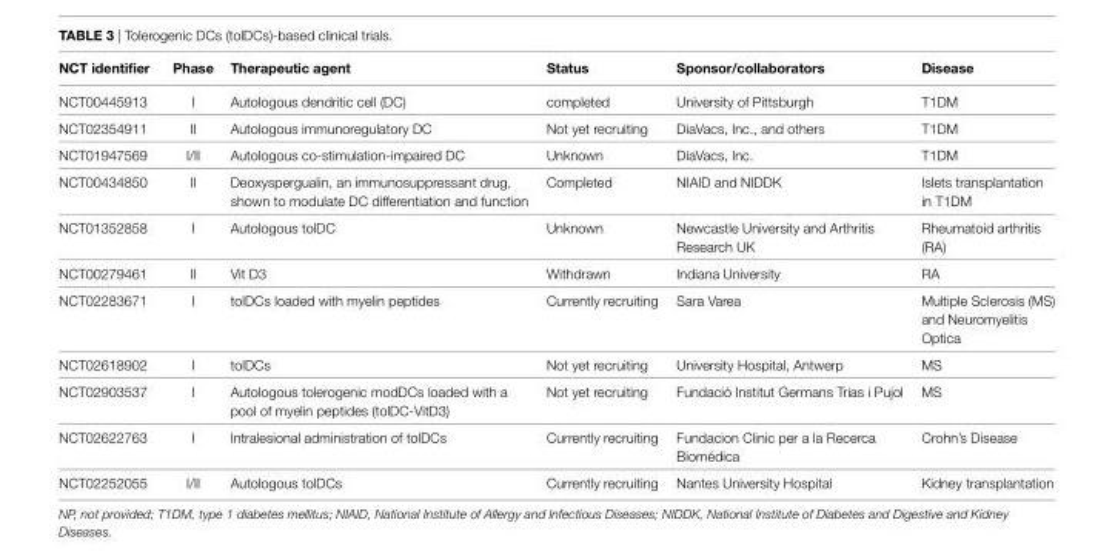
<table><thead><tr><td>NCT identifier</td><td>Phase</td><td>Therapeutic agent</td><td>Status</td><td>Sponsor/collaborators</td><td>Disease</td></tr></thead><tbody><tr><td>NCT00445913</td><td>I</td><td>Autologous dendritic cell (DC)</td><td>completed</td><td>University of Pittsburgh</td><td>T1DM</td></tr><tr><td>NCT02354911</td><td>II</td><td>Autologous immunoregulatory DC</td><td>Not yet recruiting</td><td>DiaVacs, Inc., and others</td><td>T1DM</td></tr><tr><td>NCT01947569</td><td>I/II</td><td>Autologous co-stimulation-impaired DC</td><td>Unknown</td><td>DiaVacs, Inc.</td><td>T1DM</td></tr><tr><td>NCT00434850</td><td>II</td><td>Deoxyspergualin, an immunosuppressant drug, shown to modulate DC differentiation and function</td><td>Completed</td><td>NIAID and NIDDK</td><td>Islets transplantation in T1DM</td></tr><tr><td>NCT01352858</td><td>I</td><td>Autologous tolDC</td><td>Unknown</td><td>Newcastle University and Arthritis Research UK</td><td>Rheumatoid arthritis (RA)</td></tr><tr><td>NCT00279461</td><td>II</td><td>Vit D3</td><td>Withdrawn</td><td>Indiana University</td><td>RA</td></tr><tr><td>NCT02283671</td><td>I</td><td>tolDCs loaded with myelin peptides</td><td>Currently recruiting</td><td>Sara Varea</td><td>Multiple Sclerosis (MS) and Neuromyelitis Optica</td></tr><tr><td>NCT02618902</td><td>I</td><td>tolDCs</td><td>Not yet recruiting</td><td>University Hospital, Antwerp</td><td>MS</td></tr><tr><td>NCT02903537</td><td>I</td><td>Autologous tolerogenic modDCs loaded with a pool of myelin peptides (tolDC-VitD3)</td><td>Not yet recruiting</td><td>Fundació Institut Germans Trias i Pujol</td><td>MS</td></tr><tr><td>NCT02622763</td><td>I</td><td>Intralesional administration of tolDCs</td><td>Currently recruiting</td><td>Fundacion Clinic per a la Recerca Biomédica</td><td>Crohn’s Disease</td></tr><tr><td>NCT02252055</td><td>I/II</td><td>Autologous tolDCs</td><td>Currently recruiting</td><td>Nantes University Hospital</td><td>Kidney transplantation</td></tr></tbody></table>